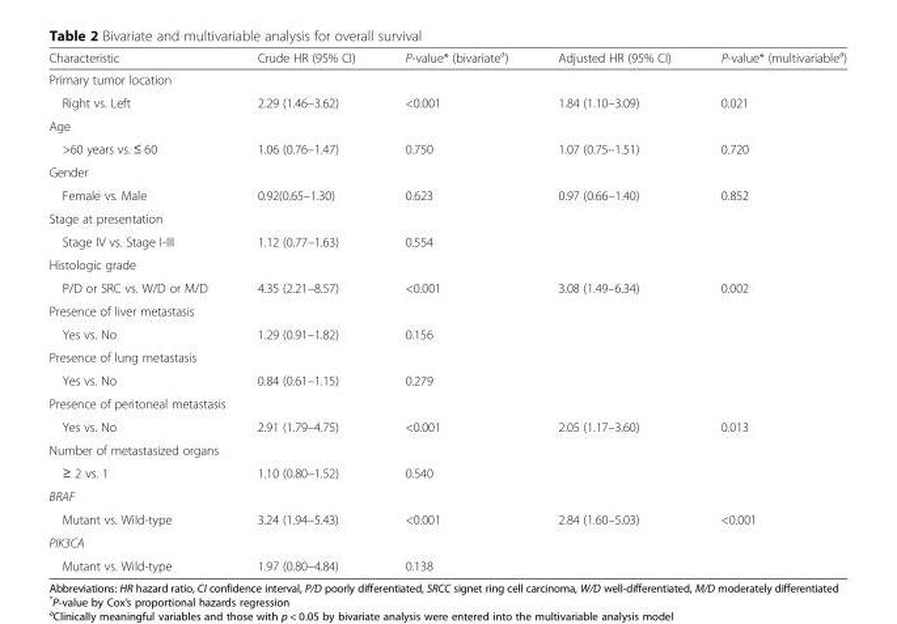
<table><thead><tr><td>Characteristic</td><td>Crude HR (95% CI)</td><td>P-value* (bivariate<sup>a</sup>)</td><td>Adjusted HR (95% CI)</td><td>P-value* (multivariable<sup>a</sup>)</td></tr></thead><tbody><tr><td colspan="5">Primary tumor location</td></tr><tr><td>Right vs. Left</td><td>2.29 (1.46–3.62)</td><td>&lt;0.001</td><td>1.84 (1.10–3.09)</td><td>0.021</td></tr><tr><td colspan="5">Age</td></tr><tr><td>&gt;60 years vs. ≤ 60</td><td>1.06 (0.76–1.47)</td><td>0.750</td><td>1.07 (0.75–1.51)</td><td>0.720</td></tr><tr><td colspan="5">Gender</td></tr><tr><td>Female vs. Male</td><td>0.92(0.65–1.30)</td><td>0.623</td><td>0.97 (0.66–1.40)</td><td>0.852</td></tr><tr><td colspan="5">Stage at presentation</td></tr><tr><td>Stage IV vs. Stage I-III</td><td>1.12 (0.77–1.63)</td><td>0.554</td><td></td><td></td></tr><tr><td colspan="5">Histologic grade</td></tr><tr><td>P/D or SRC vs. W/D or M/D</td><td>4.35 (2.21–8.57)</td><td>&lt;0.001</td><td>3.08 (1.49–6.34)</td><td>0.002</td></tr><tr><td colspan="5">Presence of liver metastasis</td></tr><tr><td>Yes vs. No</td><td>1.29 (0.91–1.82)</td><td>0.156</td><td></td><td></td></tr><tr><td colspan="5">Presence of lung metastasis</td></tr><tr><td>Yes vs. No</td><td>0.84 (0.61–1.15)</td><td>0.279</td><td></td><td></td></tr><tr><td colspan="5">Presence of peritoneal metastasis</td></tr><tr><td>Yes vs. No</td><td>2.91 (1.79–4.75)</td><td>&lt;0.001</td><td>2.05 (1.17–3.60)</td><td>0.013</td></tr><tr><td colspan="5">Number of metastasized organs</td></tr><tr><td>≥ 2 vs. 1</td><td>1.10 (0.80–1.52)</td><td>0.540</td><td></td><td></td></tr><tr><td colspan="5">BRAF</td></tr><tr><td>Mutant vs. Wild-type</td><td>3.24 (1.94–5.43)</td><td>&lt;0.001</td><td>2.84 (1.60–5.03)</td><td>&lt;0.001</td></tr><tr><td colspan="5">PIK3CA</td></tr><tr><td>Mutant vs. Wild-type</td><td>1.97 (0.80–4.84)</td><td>0.138</td><td></td><td></td></tr></tbody></table>